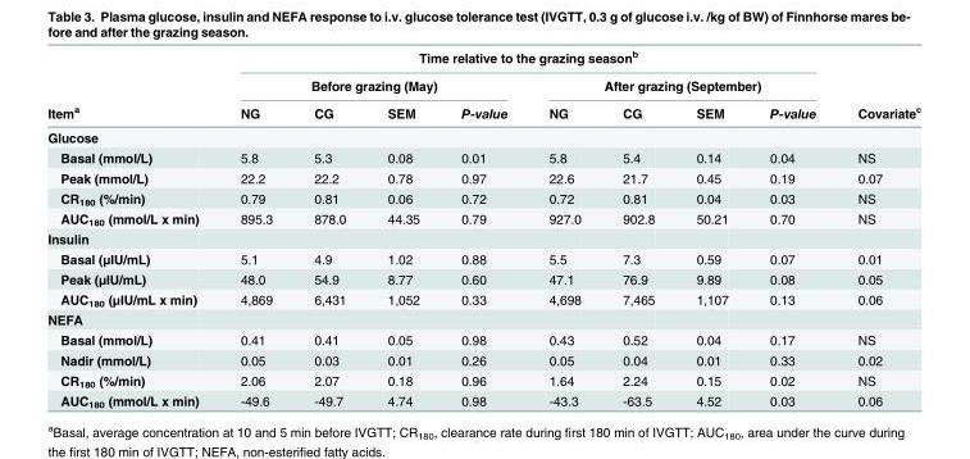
<table><thead><tr><td rowspan="3">Item<sup>a</sup></td><td colspan="8">Time relative to the grazing season<sup>b</sup></td><td rowspan="3">Covariate<sup>c</sup></td></tr><tr><td colspan="4">Before grazing (May)</td><td colspan="4">After grazing (September)</td></tr><tr><td>NG</td><td>CG</td><td>SEM</td><td>P-value</td><td>NG</td><td>CG</td><td>SEM</td><td>P-value</td></tr></thead><tbody><tr><td colspan="10">Glucose</td></tr><tr><td>Basal (mmol/L)</td><td>5.8</td><td>5.3</td><td>0.08</td><td>0.01</td><td>5.8</td><td>5.4</td><td>0.14</td><td>0.04</td><td>NS</td></tr><tr><td>Peak (mmol/L)</td><td>22.2</td><td>22.2</td><td>0.78</td><td>0.97</td><td>22.6</td><td>21.7</td><td>0.45</td><td>0.19</td><td>0.07</td></tr><tr><td>CR<sub>180</sub> (%/min)</td><td>0.79</td><td>0.81</td><td>0.06</td><td>0.72</td><td>0.72</td><td>0.81</td><td>0.04</td><td>0.03</td><td>NS</td></tr><tr><td>AUC<sub>180</sub> (mmol/L x min)</td><td>895.3</td><td>878.0</td><td>44.35</td><td>0.79</td><td>927.0</td><td>902.8</td><td>50.21</td><td>0.70</td><td>NS</td></tr><tr><td colspan="10">Insulin</td></tr><tr><td>Basal (μIU/mL)</td><td>5.1</td><td>4.9</td><td>1.02</td><td>0.88</td><td>5.5</td><td>7.3</td><td>0.59</td><td>0.07</td><td>0.01</td></tr><tr><td>Peak (μIU/mL)</td><td>48.0</td><td>54.9</td><td>8.77</td><td>0.60</td><td>47.1</td><td>76.9</td><td>9.89</td><td>0.08</td><td>0.05</td></tr><tr><td>AUC<sub>180</sub> (μIU/mL x min)</td><td>4,869</td><td>6,431</td><td>1,052</td><td>0.33</td><td>4,698</td><td>7,465</td><td>1,107</td><td>0.13</td><td>0.06</td></tr><tr><td colspan="10">NEFA</td></tr><tr><td>Basal (mmol/L)</td><td>0.41</td><td>0.41</td><td>0.05</td><td>0.98</td><td>0.43</td><td>0.52</td><td>0.04</td><td>0.17</td><td>NS</td></tr><tr><td>Nadir (mmol/L)</td><td>0.05</td><td>0.03</td><td>0.01</td><td>0.26</td><td>0.05</td><td>0.04</td><td>0.01</td><td>0.33</td><td>0.02</td></tr><tr><td>CR<sub>180</sub> (%/min)</td><td>2.06</td><td>2.07</td><td>0.18</td><td>0.96</td><td>1.64</td><td>2.24</td><td>0.15</td><td>0.02</td><td>NS</td></tr><tr><td>AUC<sub>180</sub> (mmol/L x min)</td><td>-49.6</td><td>-49.7</td><td>4.74</td><td>0.98</td><td>-43.3</td><td>-63.5</td><td>4.52</td><td>0.03</td><td>0.06</td></tr></tbody></table>